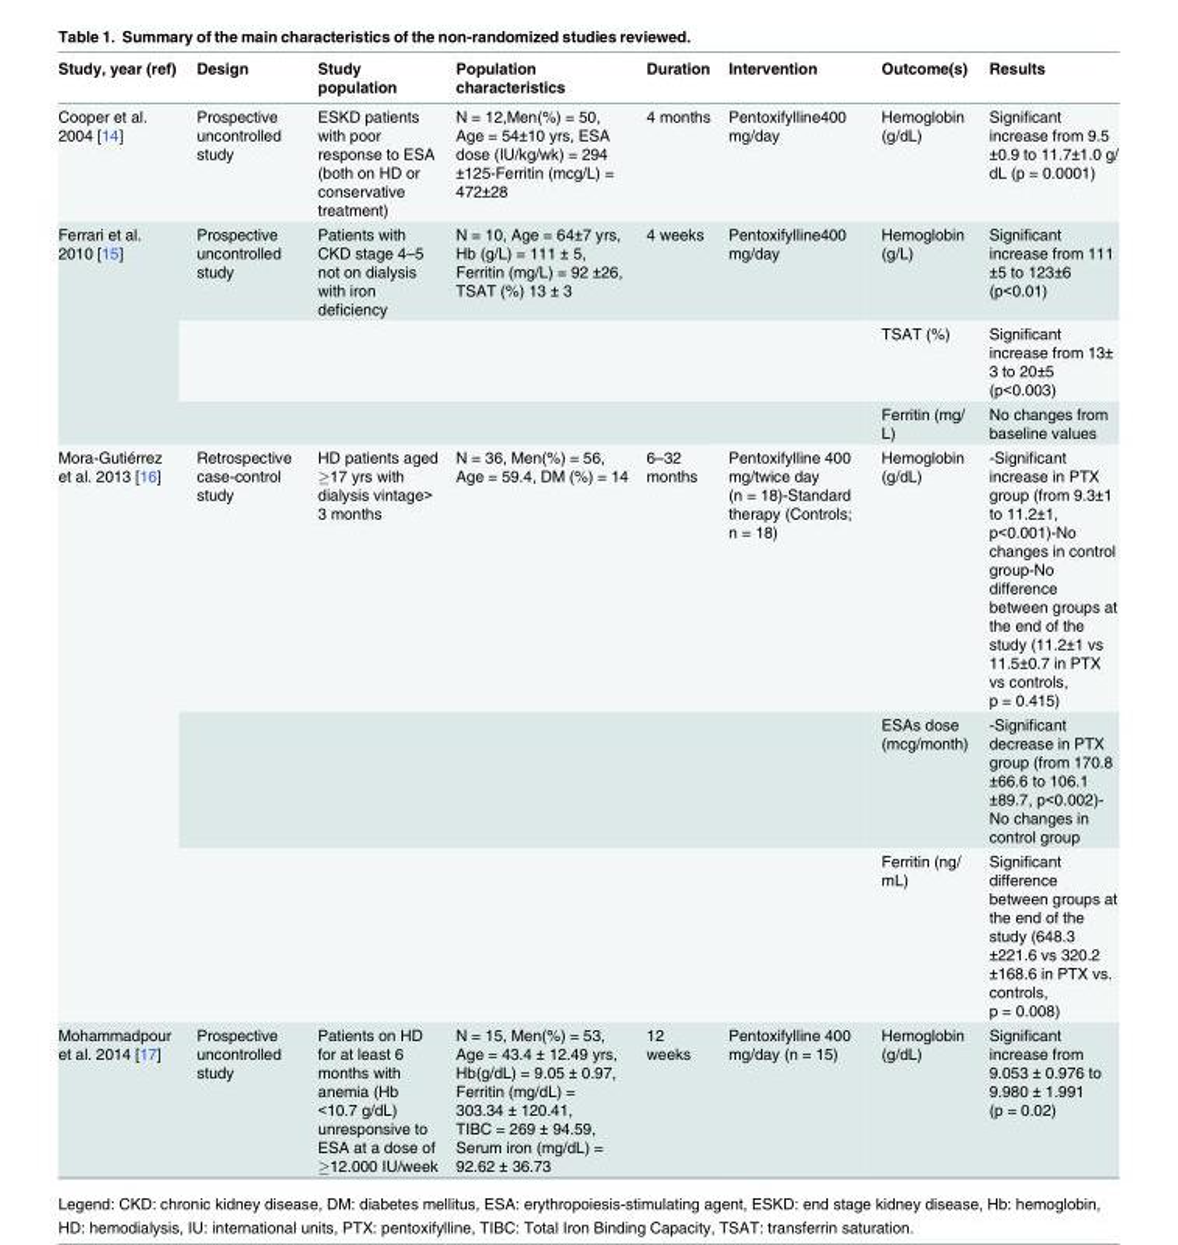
<table><thead><tr><td>Study, year (ref)</td><td>Design</td><td>Study population</td><td>Population characteristics</td><td>Duration</td><td>Intervention</td><td>Outcome(s)</td><td>Results</td></tr></thead><tbody><tr><td>Cooper et al. 2004 [14]</td><td>Prospective uncontrolled study</td><td>ESKD patients with poor response to ESA (both on HD or conservative treatment)</td><td>N = 12,Men(%) = 50, Age = 54±10 yrs, ESA dose (IU/kg/wk) = 294 ±125-Ferritin (mcg/L) = 472±28</td><td>4 months</td><td>Pentoxifylline400 mg/day</td><td>Hemoglobin (g/dL)</td><td>Significant increase from 9.5 ±0.9 to 11.7±1.0 g/ dL (p = 0.0001)</td></tr><tr><td rowspan="3">Ferrari et al. 2010 [15]</td><td>Prospective uncontrolled study</td><td>Patients with CKD stage 4–5 not on dialysis with iron deficiency</td><td>N = 10, Age = 64±7 yrs, Hb (g/L) = 111 ± 5, Ferritin (mg/L) = 92 ±26, TSAT (%) 13 ± 3</td><td>4 weeks</td><td>Pentoxifylline400 mg/day</td><td>Hemoglobin (g/L)</td><td>Significant increase from 111 ±5 to 123±6 (p&lt;0.01)</td></tr><tr><td></td><td></td><td></td><td></td><td></td><td>TSAT (%)</td><td>Significant increase from 13± 3 to 20±5 (p&lt;0.003)</td></tr><tr><td></td><td></td><td></td><td></td><td></td><td>Ferritin (mg/ L)</td><td>No changes from baseline values</td></tr><tr><td rowspan="3">Mora-Gutiérrez et al. 2013 [16]</td><td>Retrospective case-control study</td><td>HD patients aged ≥17 yrs with dialysis vintage&gt; 3 months</td><td>N = 36, Men(%) = 56, Age = 59.4, DM (%) = 14</td><td>6–32 months</td><td>Pentoxifylline 400 mg/twice day (n = 18)-Standard therapy (Controls; n = 18)</td><td>Hemoglobin (g/dL)</td><td>-Significant increase in PTX group (from 9.3±1 to 11.2±1, p&lt;0.001)-No changes in control group-No difference between groups at the end of the study (11.2±1 vs 11.5±0.7 in PTX vs controls, p = 0.415)</td></tr><tr><td></td><td></td><td></td><td></td><td></td><td>ESAs dose (mcg/month)</td><td>-Significant decrease in PTX group (from 170.8 ±66.6 to 106.1 ±89.7, p&lt;0.002)- No changes in control group</td></tr><tr><td></td><td></td><td></td><td></td><td></td><td>Ferritin (ng/ mL)</td><td>Significant difference between groups at the end of the study (648.3 ±221.6 vs 320.2 ±168.6 in PTX vs. controls, p = 0.008)</td></tr><tr><td>Mohammadpour et al. 2014 [17]</td><td>Prospective uncontrolled study</td><td>Patients on HD for at least 6 months with anemia (Hb &lt;10.7 g/dL) unresponsive to ESA at a dose of ≥12.000 IU/week</td><td>N = 15, Men(%) = 53, Age = 43.4 ± 12.49 yrs, Hb(g/dL) = 9.05 ± 0.97, Ferritin (mg/dL) = 303.34 ± 120.41, TIBC = 269 ± 94.59, Serum iron (mg/dL) = 92.62 ± 36.73</td><td>12 weeks</td><td>Pentoxifylline 400 mg/day (n = 15)</td><td>Hemoglobin (g/dL)</td><td>Significant increase from 9.053 ± 0.976 to 9.980 ± 1.991 (p = 0.02)</td></tr></tbody></table>